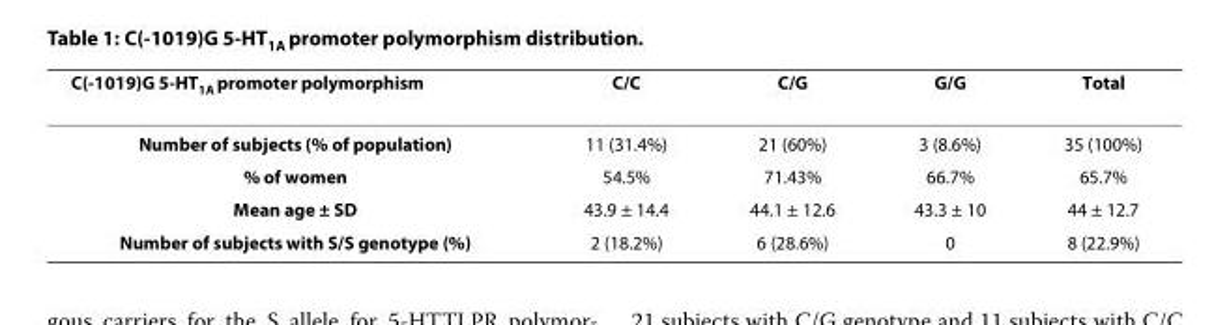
<table><thead><tr><td>C(-1019)G 5-HT<sub>1A</sub> promoter polymorphism</td><td>C/C</td><td>C/G</td><td>G/G</td><td>Total</td></tr></thead><tbody><tr><td>Number of subjects (% of population)</td><td>11 (31.4%)</td><td>21 (60%)</td><td>3 (8.6%)</td><td>35 (100%)</td></tr><tr><td>% of women</td><td>54.5%</td><td>71.43%</td><td>66.7%</td><td>65.7%</td></tr><tr><td>Mean age ± SD</td><td>43.9 ± 14.4</td><td>44.1 ± 12.6</td><td>43.3 ± 10</td><td>44 ± 12.7</td></tr><tr><td>Number of subjects with S/S genotype (%)</td><td>2 (18.2%)</td><td>6 (28.6%)</td><td>0</td><td>8 (22.9%)</td></tr></tbody></table>